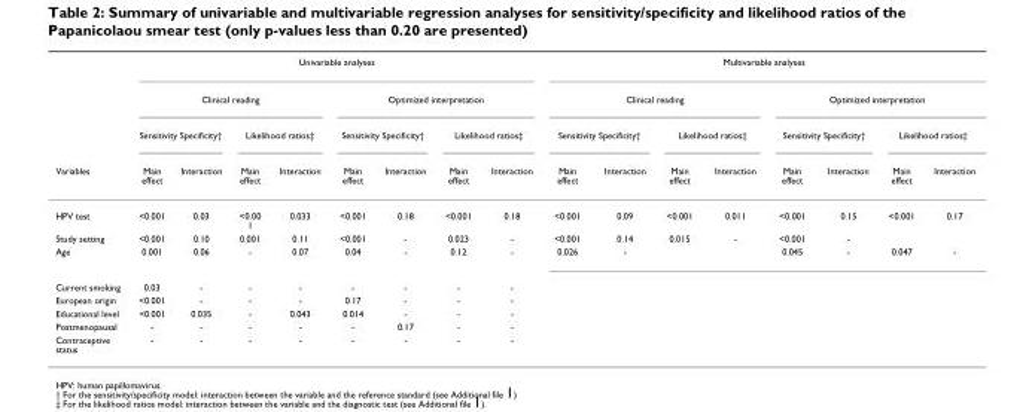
<table><thead><tr><td rowspan="4">Variables</td><td colspan="8">Univariable analyses</td><td colspan="8">Multivariable analyses</td></tr><tr><td colspan="4">Clinical reading</td><td colspan="4">Optimized interpretation</td><td colspan="4">Clinical reading</td><td colspan="4">Optimized interpretation</td></tr><tr><td colspan="2">Sensitivity Specificity†</td><td colspan="2">Likelihood ratios‡</td><td colspan="2">Sensitivity Specificity†</td><td colspan="2">Likelihood ratios‡</td><td colspan="2">Sensitivity Specificity†</td><td colspan="2">Likelihood ratios‡</td><td colspan="2">Sensitivity Specificity†</td><td colspan="2">Likelihood ratios‡</td></tr><tr><td>Main effect</td><td>Interaction</td><td>Main effect</td><td>Interaction</td><td>Main effect</td><td>Interaction</td><td>Main effect</td><td>Interaction</td><td>Main effect</td><td>Interaction</td><td>Main effect</td><td>Interaction</td><td>Main effect</td><td>Interaction</td><td>Main effect</td><td>Interaction</td></tr></thead><tbody><tr><td>HPV test</td><td>&lt;0.001</td><td>0.03</td><td>&lt;0.00 1</td><td>0.033</td><td>&lt;0.001</td><td>0.18</td><td>&lt;0.001</td><td>0.18</td><td>&lt;0.001</td><td>0.09</td><td>&lt;0.001</td><td>0.011</td><td>&lt;0.001</td><td>0.15</td><td>&lt;0.001</td><td>0.17</td></tr><tr><td>Study setting</td><td>&lt;0.001</td><td>0.10</td><td>0.001</td><td>0.11</td><td>&lt;0.001</td><td>-</td><td>0.023</td><td>-</td><td>&lt;0.001</td><td>0.14</td><td>0.015</td><td>-</td><td>&lt;0.001</td><td>-</td><td></td><td></td></tr><tr><td>Age</td><td>0.001</td><td>0.06</td><td>-</td><td>0.07</td><td>0.04</td><td>-</td><td>0.12</td><td>-</td><td>0.026</td><td>-</td><td></td><td></td><td>0.045</td><td>-</td><td>0.047</td><td>-</td></tr><tr><td>Current smoking</td><td>0.03</td><td>-</td><td>-</td><td>-</td><td>-</td><td>-</td><td>-</td><td>-</td><td></td><td></td><td></td><td></td><td></td><td></td><td></td><td></td></tr><tr><td>European origin</td><td>&lt;0.001</td><td>-</td><td>-</td><td>-</td><td>0.17</td><td>-</td><td>-</td><td>-</td><td></td><td></td><td></td><td></td><td></td><td></td><td></td><td></td></tr><tr><td>Educational level</td><td>&lt;0.001</td><td>0.035</td><td>-</td><td>0.043</td><td>0.014</td><td>-</td><td>-</td><td>-</td><td></td><td></td><td></td><td></td><td></td><td></td><td></td><td></td></tr><tr><td>Postmenopausal</td><td>-</td><td>-</td><td>-</td><td>-</td><td>-</td><td>0.17</td><td>-</td><td>-</td><td></td><td></td><td></td><td></td><td></td><td></td><td></td><td></td></tr><tr><td>Contraceptive status</td><td>-</td><td>-</td><td>-</td><td>-</td><td>-</td><td>-</td><td>-</td><td>-</td><td></td><td></td><td></td><td></td><td></td><td></td><td></td><td></td></tr></tbody></table>